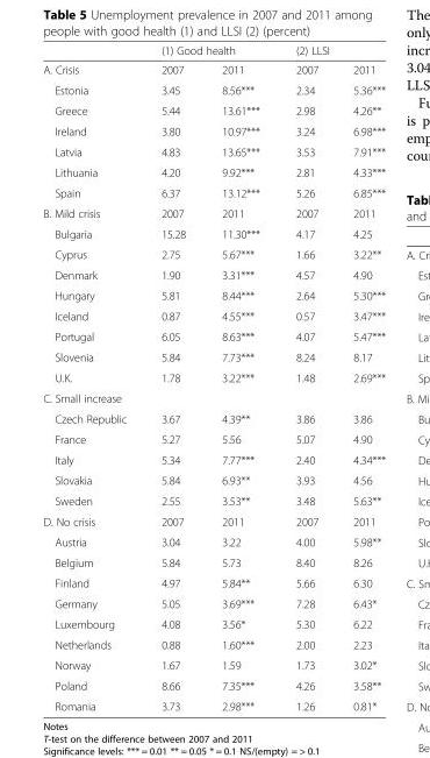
<table><thead><tr><td rowspan="2">A. Crisis</td><td colspan="2">(1) Good health</td><td colspan="2">(2) LLSI</td></tr><tr><td>2007</td><td>2011</td><td>2007</td><td>2011</td></tr></thead><tbody><tr><td>Estonia</td><td>3.45</td><td>8.56***</td><td>2.34</td><td>5.36***</td></tr><tr><td>Greece</td><td>5.44</td><td>13.61***</td><td>2.98</td><td>4.26**</td></tr><tr><td>Ireland</td><td>3.80</td><td>10.97***</td><td>3.24</td><td>6.98***</td></tr><tr><td>Latvia</td><td>4.83</td><td>13.65***</td><td>3.53</td><td>7.91***</td></tr><tr><td>Lithuania</td><td>4.20</td><td>9.92***</td><td>2.81</td><td>4.33***</td></tr><tr><td>Spain</td><td>6.37</td><td>13.12***</td><td>5.26</td><td>6.85***</td></tr><tr><td>B. Mild crisis</td><td>2007</td><td>2011</td><td>2007</td><td>2011</td></tr><tr><td>Bulgaria</td><td>15.28</td><td>11.30***</td><td>4.17</td><td>4.25</td></tr><tr><td>Cyprus</td><td>2.75</td><td>5.67***</td><td>1.66</td><td>3.22**</td></tr><tr><td>Denmark</td><td>1.90</td><td>3.31***</td><td>4.57</td><td>4.90</td></tr><tr><td>Hungary</td><td>5.81</td><td>8.44***</td><td>2.64</td><td>5.30***</td></tr><tr><td>Iceland</td><td>0.87</td><td>4.55***</td><td>0.57</td><td>3.47***</td></tr><tr><td>Portugal</td><td>6.05</td><td>8.63***</td><td>4.07</td><td>5.47***</td></tr><tr><td>Slovenia</td><td>5.84</td><td>7.73***</td><td>8.24</td><td>8.17</td></tr><tr><td>U.K.</td><td>1.78</td><td>3.22***</td><td>1.48</td><td>2.69***</td></tr><tr><td colspan="5">C. Small increase</td></tr><tr><td>Czech Republic</td><td>3.67</td><td>4.39**</td><td>3.86</td><td>3.86</td></tr><tr><td>France</td><td>5.27</td><td>5.56</td><td>5.07</td><td>4.90</td></tr><tr><td>Italy</td><td>5.34</td><td>7.77***</td><td>2.40</td><td>4.34***</td></tr><tr><td>Slovakia</td><td>5.84</td><td>6.93**</td><td>3.93</td><td>4.56</td></tr><tr><td>Sweden</td><td>2.55</td><td>3.53**</td><td>3.48</td><td>5.63**</td></tr><tr><td>D. No crisis</td><td>2007</td><td>2011</td><td>2007</td><td>2011</td></tr><tr><td>Austria</td><td>3.04</td><td>3.22</td><td>4.00</td><td>5.98**</td></tr><tr><td>Belgium</td><td>5.84</td><td>5.73</td><td>8.40</td><td>8.26</td></tr><tr><td>Finland</td><td>4.97</td><td>5.84**</td><td>5.66</td><td>6.30</td></tr><tr><td>Germany</td><td>5.05</td><td>3.69***</td><td>7.28</td><td>6.43*</td></tr><tr><td>Luxembourg</td><td>4.08</td><td>3.56*</td><td>5.30</td><td>6.22</td></tr><tr><td>Netherlands</td><td>0.88</td><td>1.60***</td><td>2.00</td><td>2.23</td></tr><tr><td>Norway</td><td>1.67</td><td>1.59</td><td>1.73</td><td>3.02*</td></tr><tr><td>Poland</td><td>8.66</td><td>7.35***</td><td>4.26</td><td>3.58**</td></tr><tr><td>Romania</td><td>3.73</td><td>2.98***</td><td>1.26</td><td>0.81*</td></tr></tbody></table>